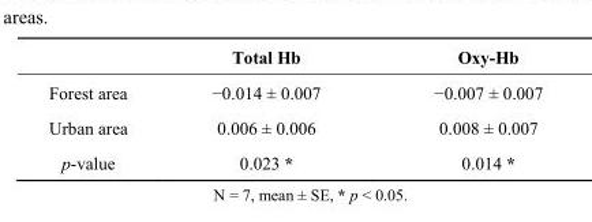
<table><thead><tr><td></td><td>Total Hb</td><td>Oxy-Hb</td></tr></thead><tbody><tr><td>Forest area</td><td>−0.014 ± 0.007</td><td>−0.007 ± 0.007</td></tr><tr><td>Urban area</td><td>0.006 ± 0.006</td><td>0.008 ± 0.007</td></tr><tr><td>p-value</td><td>0.023 *</td><td>0.014 *</td></tr></tbody></table>